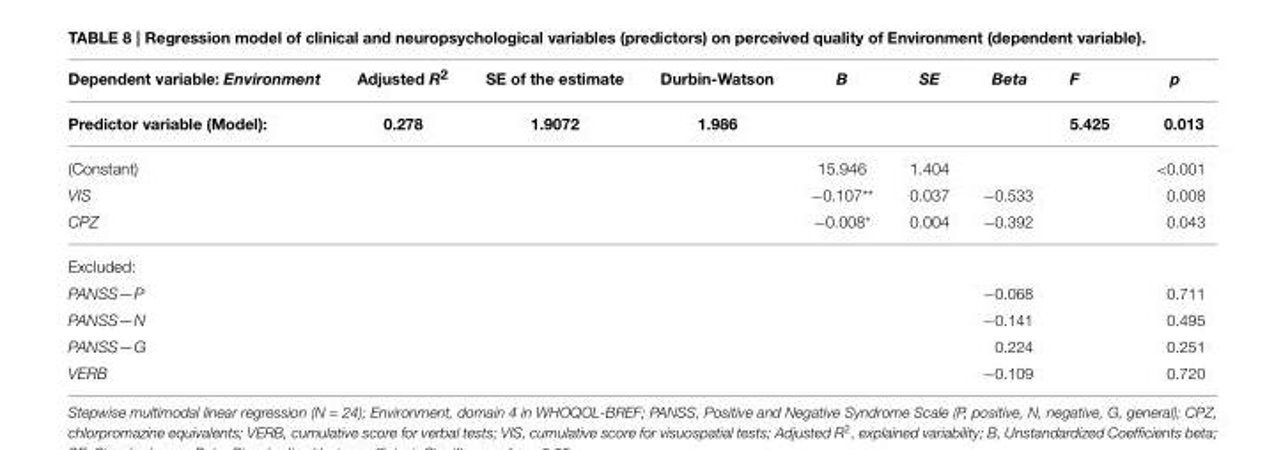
<table><thead><tr><td>Dependent variable: Environment</td><td>Adjusted R<sup>2</sup></td><td>SE of the estimate</td><td>Durbin-Watson</td><td>B</td><td>SE</td><td>Beta</td><td>F</td><td>p</td></tr></thead><tbody><tr><td>Predictor variable (Model):</td><td>0.278</td><td>1.9072</td><td>1.986</td><td></td><td></td><td></td><td>5.425</td><td>0.013</td></tr><tr><td>(Constant)</td><td></td><td></td><td></td><td>15.946</td><td>1.404</td><td></td><td></td><td>&lt;0.001</td></tr><tr><td>VIS</td><td></td><td></td><td></td><td>−0.107**</td><td>0.037</td><td>−0.533</td><td></td><td>0.008</td></tr><tr><td>CPZ</td><td></td><td></td><td></td><td>−0.008*</td><td>0.004</td><td>−0.392</td><td></td><td>0.043</td></tr><tr><td colspan="9">Excluded:</td></tr><tr><td>PANSS—P</td><td></td><td></td><td></td><td></td><td></td><td>−0.068</td><td></td><td>0.711</td></tr><tr><td>PANSS—N</td><td></td><td></td><td></td><td></td><td></td><td>−0.141</td><td></td><td>0.495</td></tr><tr><td>PANSS—G</td><td></td><td></td><td></td><td></td><td></td><td>0.224</td><td></td><td>0.251</td></tr><tr><td>VERB</td><td></td><td></td><td></td><td></td><td></td><td>−0.109</td><td></td><td>0.720</td></tr></tbody></table>